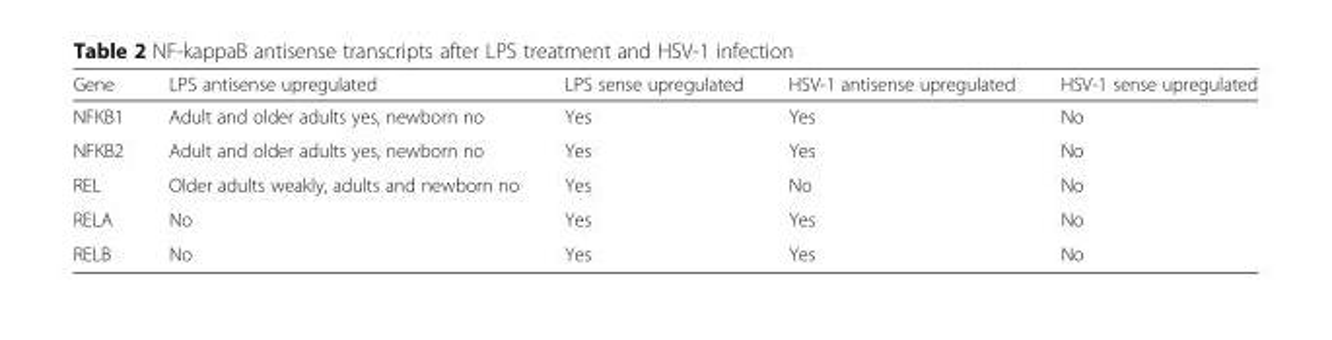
<table><thead><tr><td>Gene</td><td>LPS antisense upregulated</td><td>LPS sense upregulated</td><td>HSV-1 antisense upregulated</td><td>HSV-1 sense upregulated</td></tr></thead><tbody><tr><td>NFKB1</td><td>Adult and older adults yes, newborn no</td><td>Yes</td><td>Yes</td><td>No</td></tr><tr><td>NFKB2</td><td>Adult and older adults yes, newborn no</td><td>Yes</td><td>Yes</td><td>No</td></tr><tr><td>REL</td><td>Older adults weakly, adults and newborn no</td><td>Yes</td><td>No</td><td>No</td></tr><tr><td>RELA</td><td>No</td><td>Yes</td><td>Yes</td><td>No</td></tr><tr><td>RELB</td><td>No</td><td>Yes</td><td>Yes</td><td>No</td></tr></tbody></table>